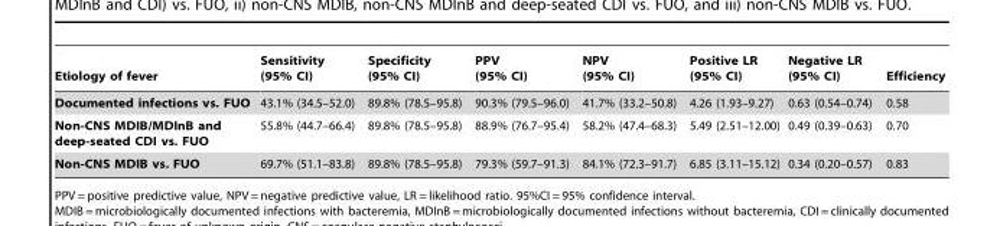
<table><thead><tr><td>Etiology of fever</td><td>Sensitivity (95% CI)</td><td>Specificity (95% CI)</td><td>PPV (95% CI)</td><td>NPV (95% CI)</td><td>Positive LR (95% CI)</td><td>Negative LR (95% CI)</td><td>Efficiency</td></tr></thead><tbody><tr><td>Documented infections vs. FUO</td><td>43.1% (34.5–52.0)</td><td>89.8% (78.5–95.8)</td><td>90.3% (79.5–96.0)</td><td>41.7% (33.2–50.8)</td><td>4.26 (1.93–9.27)</td><td>0.63 (0.54–0.74)</td><td>0.58</td></tr><tr><td>Non-CNS MDIB/MDInB and deep-seated CDI vs. FUO</td><td>55.8% (44.7–66.4)</td><td>89.8% (78.5–95.8)</td><td>88.9% (76.7–95.4)</td><td>58.2% (47.4–68.3)</td><td>5.49 (2.51–12.00)</td><td>0.49 (0.39–0.63)</td><td>0.70</td></tr><tr><td>Non-CNS MDIB vs. FUO</td><td>69.7% (51.1–83.8)</td><td>89.8% (78.5–95.8)</td><td>79.3% (59.7–91.3)</td><td>84.1% (72.3–91.7)</td><td>6.85 (3.11–15.12)</td><td>0.34 (0.20–0.57)</td><td>0.83</td></tr></tbody></table>